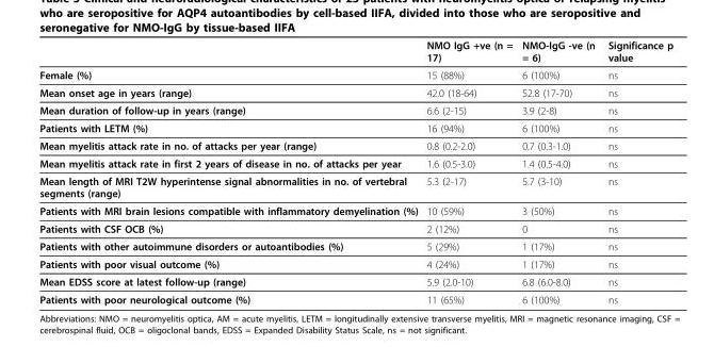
<table><thead><tr><td></td><td>NMO IgG +ve (n = 17)</td><td>NMO-IgG -ve (n = 6)</td><td>Significance p value</td></tr></thead><tbody><tr><td>Female (%)</td><td>15 (88%)</td><td>6 (100%)</td><td>ns</td></tr><tr><td>Mean onset age in years (range)</td><td>42.0 (18-64)</td><td>52.8 (17-70)</td><td>ns</td></tr><tr><td>Mean duration of follow-up in years (range)</td><td>6.6 (2-15)</td><td>3.9 (2-8)</td><td>ns</td></tr><tr><td>Patients with LETM (%)</td><td>16 (94%)</td><td>6 (100%)</td><td>ns</td></tr><tr><td>Mean myelitis attack rate in no. of attacks per year (range)</td><td>0.8 (0.2-2.0)</td><td>0.7 (0.3-1.0)</td><td>ns</td></tr><tr><td>Mean myelitis attack rate in first 2 years of disease in no. of attacks per year</td><td>1.6 (0.5-3.0)</td><td>1.4 (0.5-4.0)</td><td>ns</td></tr><tr><td>Mean length of MRI T2W hyperintense signal abnormalities in no. of vertebral segments (range)</td><td>5.3 (2-17)</td><td>5.7 (3-10)</td><td>ns</td></tr><tr><td>Patients with MRI brain lesions compatible with inflammatory demyelination (%)</td><td>10 (59%)</td><td>3 (50%)</td><td>ns</td></tr><tr><td>Patients with CSF OCB (%)</td><td>2 (12%)</td><td>0</td><td>ns</td></tr><tr><td>Patients with other autoimmune disorders or autoantibodies (%)</td><td>5 (29%)</td><td>1 (17%)</td><td>ns</td></tr><tr><td>Patients with poor visual outcome (%)</td><td>4 (24%)</td><td>1 (17%)</td><td>ns</td></tr><tr><td>Mean EDSS score at latest follow-up (range)</td><td>5.9 (2.0-10)</td><td>6.8 (6.0-8.0)</td><td>ns</td></tr><tr><td>Patients with poor neurological outcome (%)</td><td>11 (65%)</td><td>6 (100%)</td><td>ns</td></tr></tbody></table>